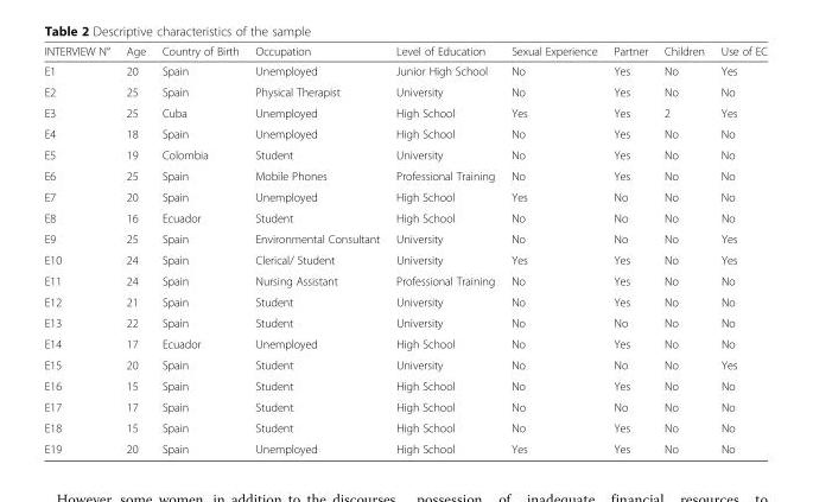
<table><thead><tr><td>INTERVIEW N°</td><td>Age</td><td>Country of Birth</td><td>Occupation</td><td>Level of Education</td><td>Sexual Experience</td><td>Partner</td><td>Children</td><td>Use of EC</td></tr></thead><tbody><tr><td>E1</td><td>20</td><td>Spain</td><td>Unemployed</td><td>Junior High School</td><td>No</td><td>Yes</td><td>No</td><td>Yes</td></tr><tr><td>E2</td><td>25</td><td>Spain</td><td>Physical Therapist</td><td>University</td><td>No</td><td>Yes</td><td>No</td><td>No</td></tr><tr><td>E3</td><td>25</td><td>Cuba</td><td>Unemployed</td><td>High School</td><td>Yes</td><td>Yes</td><td>2</td><td>Yes</td></tr><tr><td>E4</td><td>18</td><td>Spain</td><td>Unemployed</td><td>High School</td><td>No</td><td>Yes</td><td>No</td><td>No</td></tr><tr><td>E5</td><td>19</td><td>Colombia</td><td>Student</td><td>University</td><td>No</td><td>Yes</td><td>No</td><td>No</td></tr><tr><td>E6</td><td>25</td><td>Spain</td><td>Mobile Phones</td><td>Professional Training</td><td>No</td><td>Yes</td><td>No</td><td>No</td></tr><tr><td>E7</td><td>20</td><td>Spain</td><td>Unemployed</td><td>High School</td><td>Yes</td><td>No</td><td>No</td><td>No</td></tr><tr><td>E8</td><td>16</td><td>Ecuador</td><td>Student</td><td>High School</td><td>No</td><td>No</td><td>No</td><td>No</td></tr><tr><td>E9</td><td>25</td><td>Spain</td><td>Environmental Consultant</td><td>University</td><td>No</td><td>No</td><td>No</td><td>Yes</td></tr><tr><td>E10</td><td>24</td><td>Spain</td><td>Clerical/ Student</td><td>University</td><td>Yes</td><td>Yes</td><td>No</td><td>Yes</td></tr><tr><td>E11</td><td>24</td><td>Spain</td><td>Nursing Assistant</td><td>Professional Training</td><td>No</td><td>Yes</td><td>No</td><td>No</td></tr><tr><td>E12</td><td>21</td><td>Spain</td><td>Student</td><td>University</td><td>No</td><td>Yes</td><td>No</td><td>No</td></tr><tr><td>E13</td><td>22</td><td>Spain</td><td>Student</td><td>University</td><td>No</td><td>No</td><td>No</td><td>No</td></tr><tr><td>E14</td><td>17</td><td>Ecuador</td><td>Unemployed</td><td>High School</td><td>No</td><td>Yes</td><td>No</td><td>No</td></tr><tr><td>E15</td><td>20</td><td>Spain</td><td>Student</td><td>University</td><td>No</td><td>No</td><td>No</td><td>Yes</td></tr><tr><td>E16</td><td>15</td><td>Spain</td><td>Student</td><td>High School</td><td>No</td><td>Yes</td><td>No</td><td>No</td></tr><tr><td>E17</td><td>17</td><td>Spain</td><td>Student</td><td>High School</td><td>No</td><td>No</td><td>No</td><td>No</td></tr><tr><td>E18</td><td>15</td><td>Spain</td><td>Student</td><td>High School</td><td>No</td><td>Yes</td><td>No</td><td>No</td></tr><tr><td>E19</td><td>20</td><td>Spain</td><td>Unemployed</td><td>High School</td><td>Yes</td><td>Yes</td><td>No</td><td>No</td></tr></tbody></table>